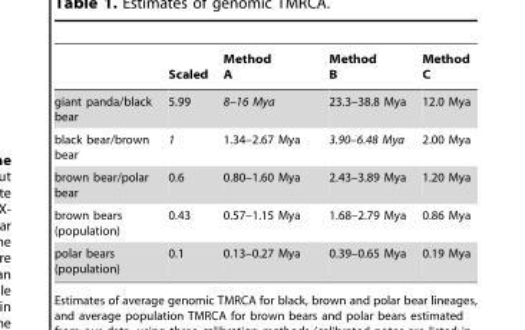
<table><thead><tr><td></td><td>Scaled</td><td>Method A</td><td>Method B</td><td>Method C</td></tr></thead><tbody><tr><td>giant panda/black bear</td><td>5.99</td><td>8–16 Mya</td><td>23.3–38.8 Mya</td><td>12.0 Mya</td></tr><tr><td>black bear/brown bear</td><td>1</td><td>1.34–2.67 Mya</td><td>3.90–6.48 Mya</td><td>2.00 Mya</td></tr><tr><td>brown bear/polar bear</td><td>0.6</td><td>0.80–1.60 Mya</td><td>2.43–3.89 Mya</td><td>1.20 Mya</td></tr><tr><td>brown bears (population)</td><td>0.43</td><td>0.57–1.15 Mya</td><td>1.68–2.79 Mya</td><td>0.86 Mya</td></tr><tr><td>polar bears (population)</td><td>0.1</td><td>0.13–0.27 Mya</td><td>0.39–0.65 Mya</td><td>0.19 Mya</td></tr></tbody></table>